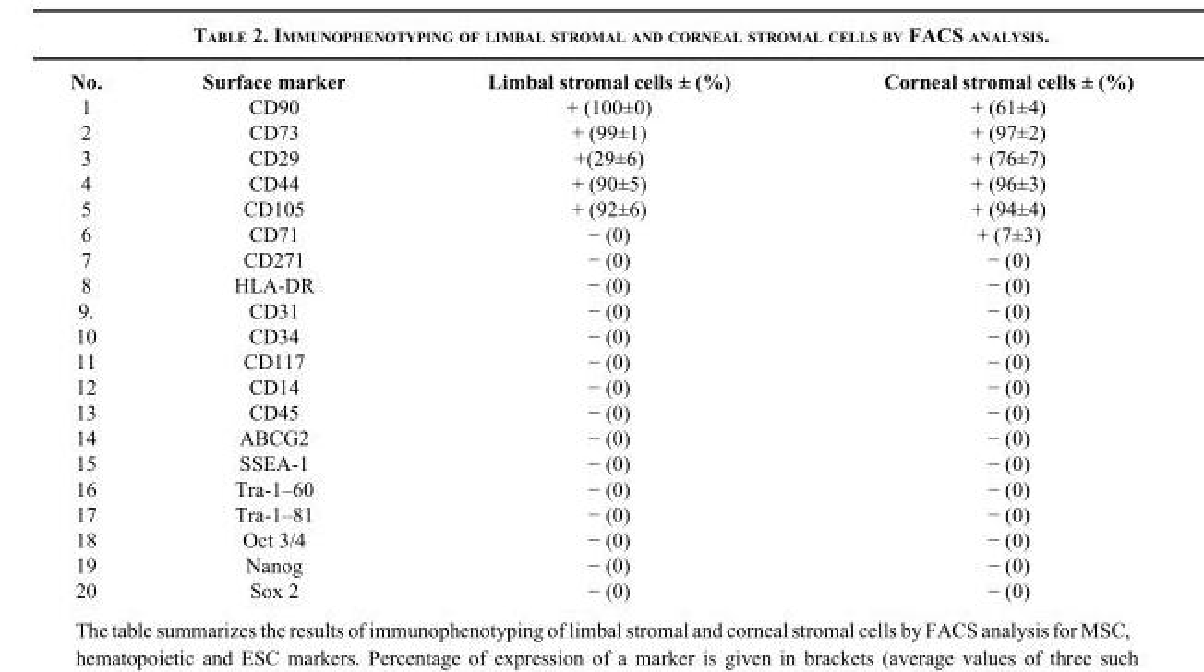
<table><thead><tr><td>No.</td><td>Surface marker</td><td>Limbal stromal cells ± (%)</td><td>Corneal stromal cells ± (%)</td></tr></thead><tbody><tr><td>1</td><td>CD90</td><td>+ (100±0)</td><td>+ (61±4)</td></tr><tr><td>2</td><td>CD73</td><td>+ (99±1)</td><td>+ (97±2)</td></tr><tr><td>3</td><td>CD29</td><td>+(29±6)</td><td>+ (76±7)</td></tr><tr><td>4</td><td>CD44</td><td>+ (90±5)</td><td>+ (96±3)</td></tr><tr><td>5</td><td>CD105</td><td>+ (92±6)</td><td>+ (94±4)</td></tr><tr><td>6</td><td>CD71</td><td>− (0)</td><td>+ (7±3)</td></tr><tr><td>7</td><td>CD271</td><td>− (0)</td><td>− (0)</td></tr><tr><td>8</td><td>HLA-DR</td><td>− (0)</td><td>− (0)</td></tr><tr><td>9.</td><td>CD31</td><td>− (0)</td><td>− (0)</td></tr><tr><td>10</td><td>CD34</td><td>− (0)</td><td>− (0)</td></tr><tr><td>11</td><td>CD117</td><td>− (0)</td><td>− (0)</td></tr><tr><td>12</td><td>CD14</td><td>− (0)</td><td>− (0)</td></tr><tr><td>13</td><td>CD45</td><td>− (0)</td><td>− (0)</td></tr><tr><td>14</td><td>ABCG2</td><td>− (0)</td><td>− (0)</td></tr><tr><td>15</td><td>SSEA-1</td><td>− (0)</td><td>− (0)</td></tr><tr><td>16</td><td>Tra-1–60</td><td>− (0)</td><td>− (0)</td></tr><tr><td>17</td><td>Tra-1–81</td><td>− (0)</td><td>− (0)</td></tr><tr><td>18</td><td>Oct 3/4</td><td>− (0)</td><td>− (0)</td></tr><tr><td>19</td><td>Nanog</td><td>− (0)</td><td>− (0)</td></tr><tr><td>20</td><td>Sox 2</td><td>− (0)</td><td>− (0)</td></tr></tbody></table>